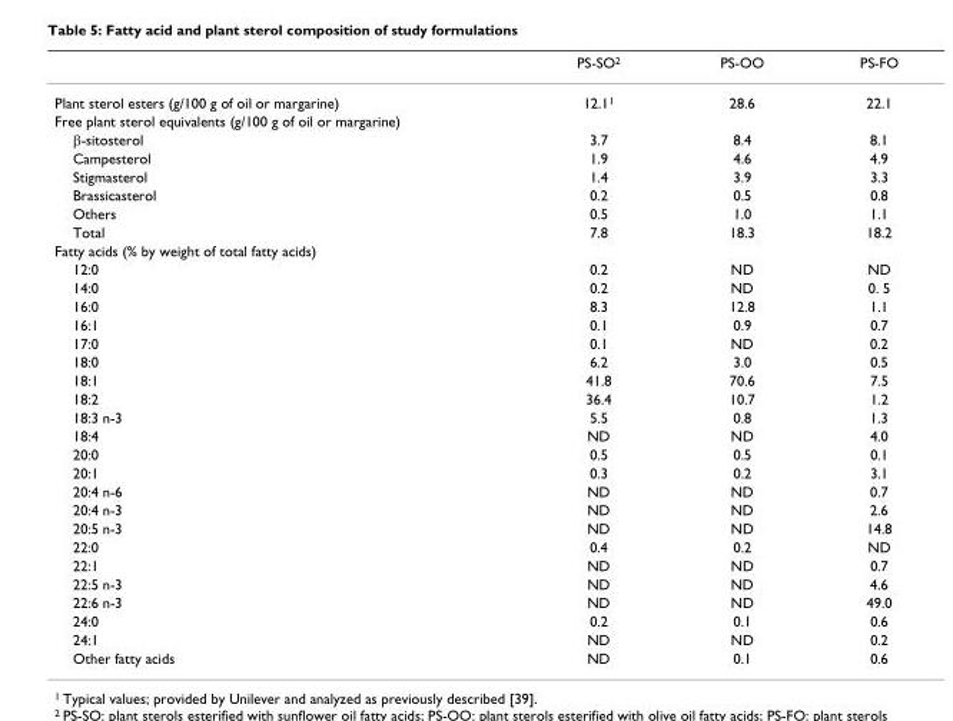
<table><thead><tr><td></td><td>PS-SO<sup>2</sup></td><td>PS-OO</td><td>PS-FO</td></tr></thead><tbody><tr><td>Plant sterol esters (g/100 g of oil or margarine)</td><td>12.1<sup>1</sup></td><td>28.6</td><td>22.1</td></tr><tr><td colspan="4">Free plant sterol equivalents (g/100 g of oil or margarine)</td></tr><tr><td>β-sitosterol</td><td>3.7</td><td>8.4</td><td>8.1</td></tr><tr><td>Campesterol</td><td>1.9</td><td>4.6</td><td>4.9</td></tr><tr><td>Stigmasterol</td><td>1.4</td><td>3.9</td><td>3.3</td></tr><tr><td>Brassicasterol</td><td>0.2</td><td>0.5</td><td>0.8</td></tr><tr><td>Others</td><td>0.5</td><td>1.0</td><td>1.1</td></tr><tr><td>Total</td><td>7.8</td><td>18.3</td><td>18.2</td></tr><tr><td colspan="4">Fatty acids (% by weight of total fatty acids)</td></tr><tr><td>12:0</td><td>0.2</td><td>ND</td><td>ND</td></tr><tr><td>14:0</td><td>0.2</td><td>ND</td><td>0. 5</td></tr><tr><td>16:0</td><td>8.3</td><td>12.8</td><td>1.1</td></tr><tr><td>16:1</td><td>0.1</td><td>0.9</td><td>0.7</td></tr><tr><td>17:0</td><td>0.1</td><td>ND</td><td>0.2</td></tr><tr><td>18:0</td><td>6.2</td><td>3.0</td><td>0.5</td></tr><tr><td>18:1</td><td>41.8</td><td>70.6</td><td>7.5</td></tr><tr><td>18:2</td><td>36.4</td><td>10.7</td><td>1.2</td></tr><tr><td>18:3 n-3</td><td>5.5</td><td>0.8</td><td>1.3</td></tr><tr><td>18:4</td><td>ND</td><td>ND</td><td>4.0</td></tr><tr><td>20:0</td><td>0.5</td><td>0.5</td><td>0.1</td></tr><tr><td>20:1</td><td>0.3</td><td>0.2</td><td>3.1</td></tr><tr><td>20:4 n-6</td><td>ND</td><td>ND</td><td>0.7</td></tr><tr><td>20:4 n-3</td><td>ND</td><td>ND</td><td>2.6</td></tr><tr><td>20:5 n-3</td><td>ND</td><td>ND</td><td>14.8</td></tr><tr><td>22:0</td><td>0.4</td><td>0.2</td><td>ND</td></tr><tr><td>22:1</td><td>ND</td><td>ND</td><td>0.7</td></tr><tr><td>22:5 n-3</td><td>ND</td><td>ND</td><td>4.6</td></tr><tr><td>22:6 n-3</td><td>ND</td><td>ND</td><td>49.0</td></tr><tr><td>24:0</td><td>0.2</td><td>0.1</td><td>0.6</td></tr><tr><td>24:1</td><td>ND</td><td>ND</td><td>0.2</td></tr><tr><td>Other fatty acids</td><td>ND</td><td>0.1</td><td>0.6</td></tr></tbody></table>